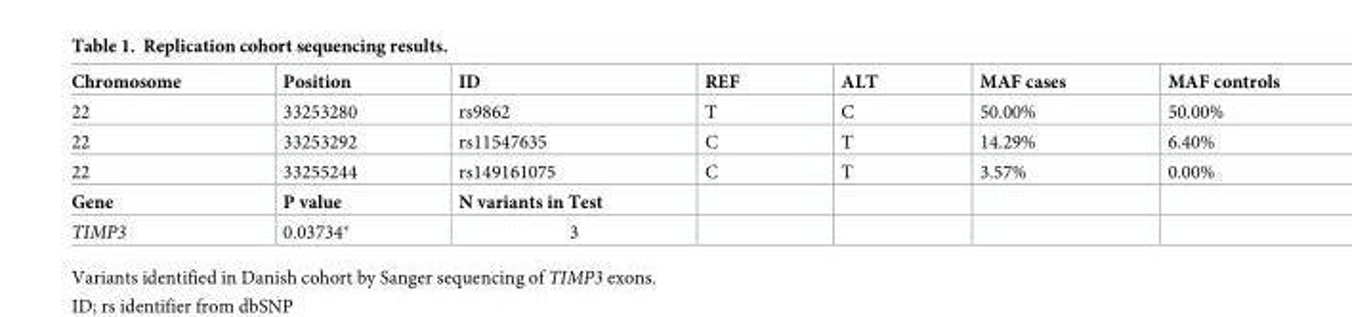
<table><tbody><tr><td>Chromosome</td><td>Position</td><td>ID</td><td>REF</td><td>ALT</td><td>MAF cases</td><td>MAF controls</td></tr><tr><td>22</td><td>33253280</td><td>rs9862</td><td>T</td><td>C</td><td>50.00%</td><td>50.00%</td></tr><tr><td>22</td><td>33253292</td><td>rs11547635</td><td>C</td><td>T</td><td>14.29%</td><td>6.40%</td></tr><tr><td>22</td><td>33255244</td><td>rs149161075</td><td>C</td><td>T</td><td>3.57%</td><td>0.00%</td></tr><tr><td>Gene</td><td>P value</td><td>N variants in Test</td><td></td><td></td><td></td><td></td></tr><tr><td>TIMP3</td><td>0.03734*</td><td>3</td><td></td><td></td><td></td><td></td></tr></tbody></table>